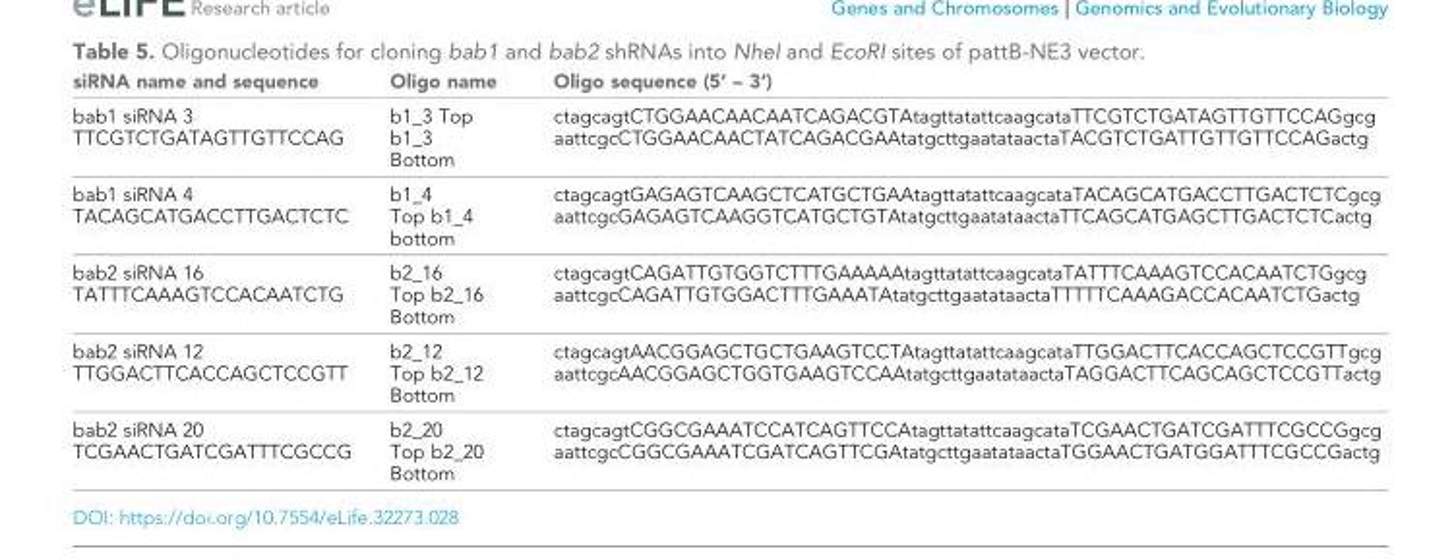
<table><thead><tr><td>siRNA name and sequence</td><td>Oligo name</td><td>Oligo sequence (5’ – 3’)</td></tr></thead><tbody><tr><td>bab1 siRNA 3 TTCGTCTGATAGTTGTTCCAG</td><td>b1_3 Top b1_3 Bottom</td><td>ctagcagtCTGGAACAACAATCAGACGTAtagttatattcaagcataTTCGTCTGATAGTTGTTCCAGgcg aattcgcCTGGAACAACTATCAGACGAAtatgcttgaatataactaTACGTCTGATTGTTGTTCCAGactg</td></tr><tr><td>bab1 siRNA 4 TACAGCATGACCTTGACTCTC</td><td>b1_4 Top b1_4 bottom</td><td>ctagcagtGAGAGTCAAGCTCATGCTGAAtagttatattcaagcataTACAGCATGACCTTGACTCTCgcg aattcgcGAGAGTCAAGGTCATGCTGTAtatgcttgaatataactaTTCAGCATGAGCTTGACTCTCactg</td></tr><tr><td>bab2 siRNA 16 TATTTCAAAGTCCACAATCTG</td><td>b2_16 Top b2_16 Bottom</td><td>ctagcagtCAGATTGTGGTCTTTGAAAAAtagttatattcaagcataTATTTCAAAGTCCACAATCTGgcg aattcgcCAGATTGTGGACTTTGAAATAtatgcttgaatataactaTTTTTCAAAGACCACAATCTGactg</td></tr><tr><td>bab2 siRNA 12 TTGGACTTCACCAGCTCCGTT</td><td>b2_12 Top b2_12 Bottom</td><td>ctagcagtAACGGAGCTGCTGAAGTCCTAtagttatattcaagcataTTGGACTTCACCAGCTCCGTTgcg aattcgcAACGGAGCTGGTGAAGTCCAAtatgcttgaatataactaTAGGACTTCAGCAGCTCCGTTactg</td></tr><tr><td>bab2 siRNA 20 TCGAACTGATCGATTTCGCCG</td><td>b2_20 Top b2_20 Bottom</td><td>ctagcagtCGGCGAAATCCATCAGTTCCAtagttatattcaagcataTCGAACTGATCGATTTCGCCGgcg aattcgcCGGCGAAATCGATCAGTTCGAtatgcttgaatataactaTGGAACTGATGGATTTCGCCGactg</td></tr></tbody></table>